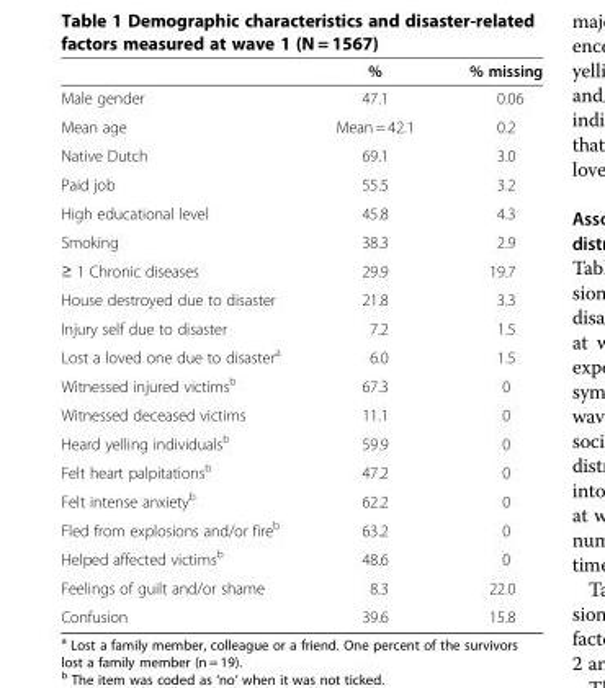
<table><thead><tr><td></td><td>%</td><td>% missing</td></tr></thead><tbody><tr><td>Male gender</td><td>47.1</td><td>0.06</td></tr><tr><td>Mean age</td><td>Mean = 42.1</td><td>0.2</td></tr><tr><td>Native Dutch</td><td>69.1</td><td>3.0</td></tr><tr><td>Paid job</td><td>55.5</td><td>3.2</td></tr><tr><td>High educational level</td><td>45.8</td><td>4.3</td></tr><tr><td>Smoking</td><td>38.3</td><td>2.9</td></tr><tr><td>≥ 1 Chronic diseases</td><td>29.9</td><td>19.7</td></tr><tr><td>House destroyed due to disaster</td><td>21.8</td><td>3.3</td></tr><tr><td>Injury self due to disaster</td><td>7.2</td><td>1.5</td></tr><tr><td>Lost a loved one due to disaster<sup>a</sup></td><td>6.0</td><td>1.5</td></tr><tr><td>Witnessed injured victims<sup>b</sup></td><td>67.3</td><td>0</td></tr><tr><td>Witnessed deceased victims</td><td>11.1</td><td>0</td></tr><tr><td>Heard yelling individuals<sup>b</sup></td><td>59.9</td><td>0</td></tr><tr><td>Felt heart palpitations<sup>b</sup></td><td>47.2</td><td>0</td></tr><tr><td>Felt intense anxiety<sup>b</sup></td><td>62.2</td><td>0</td></tr><tr><td>Fled from explosions and/or fire<sup>b</sup></td><td>63.2</td><td>0</td></tr><tr><td>Helped affected victims<sup>b</sup></td><td>48.6</td><td>0</td></tr><tr><td>Feelings of guilt and/or shame</td><td>8.3</td><td>22.0</td></tr><tr><td>Confusion</td><td>39.6</td><td>15.8</td></tr></tbody></table>